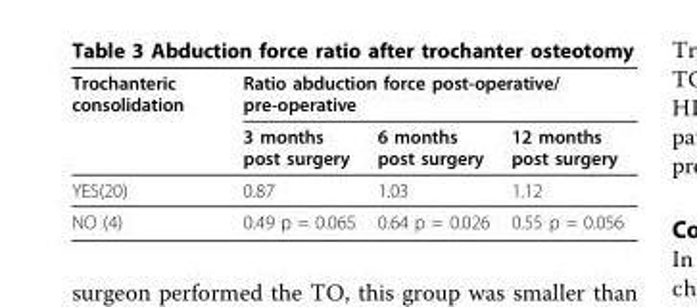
<table><thead><tr><td rowspan="2">Trochanteric consolidation</td><td colspan="3">Ratio abduction force post-operative/ pre-operative</td></tr><tr><td>3 months post surgery</td><td>6 months post surgery</td><td>12 months post surgery</td></tr></thead><tbody><tr><td>YES(20)</td><td>0.87</td><td>1.03</td><td>1.12</td></tr><tr><td>NO (4)</td><td>0.49 p = 0.065</td><td>0.64 p = 0.026</td><td>0.55 p = 0.056</td></tr></tbody></table>